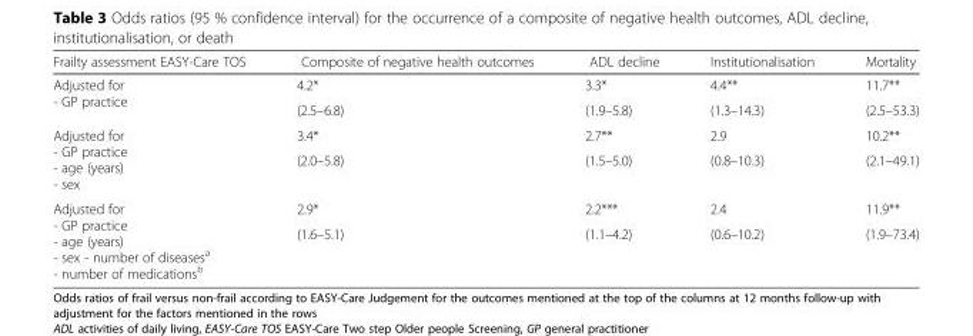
<table><thead><tr><td>Frailty assessment EASY-Care TOS</td><td>Composite of negative health outcomes</td><td>ADL decline</td><td>Institutionalisation</td><td>Mortality</td></tr></thead><tbody><tr><td rowspan="2">Adjusted for - GP practice</td><td>4.2*</td><td>3.3*</td><td>4.4**</td><td>11.7**</td></tr><tr><td>(2.5–6.8)</td><td>(1.9–5.8)</td><td>(1.3–14.3)</td><td>(2.5–53.3)</td></tr><tr><td rowspan="2">Adjusted for - GP practice - age (years) - sex</td><td>3.4*</td><td>2.7**</td><td>2.9</td><td>10.2**</td></tr><tr><td>(2.0–5.8)</td><td>(1.5–5.0)</td><td>(0.8–10.3)</td><td>(2.1–49.1)</td></tr><tr><td rowspan="2">Adjusted for - GP practice - age (years) - sex - number of diseases<sup>a</sup> - number of medications<sup>b</sup></td><td>2.9*</td><td>2.2***</td><td>2.4</td><td>11.9**</td></tr><tr><td>(1.6–5.1)</td><td>(1.1–4.2)</td><td>(0.6–10.2)</td><td>(1.9–73.4)</td></tr></tbody></table>